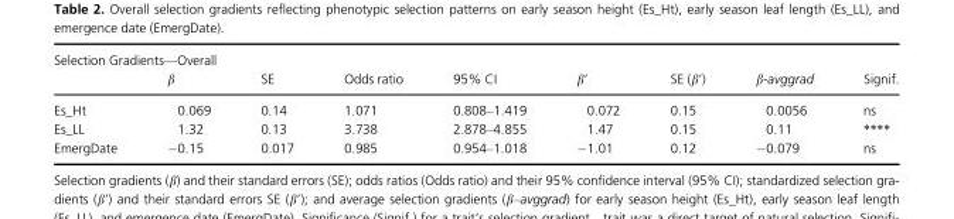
<table><thead><tr><td colspan="9">Selection Gradients—Overall</td></tr><tr><td></td><td>β</td><td>SE</td><td>Odds ratio</td><td>95% CI</td><td>β’</td><td>SE (β’)</td><td>β-avggrad</td><td>Signif.</td></tr></thead><tbody><tr><td>Es_Ht</td><td>0.069</td><td>0.14</td><td>1.071</td><td>0.808–1.419</td><td>0.072</td><td>0.15</td><td>0.0056</td><td>ns</td></tr><tr><td>Es_LL</td><td>1.32</td><td>0.13</td><td>3.738</td><td>2.878–4.855</td><td>1.47</td><td>0.15</td><td>0.11</td><td>****</td></tr><tr><td>EmergDate</td><td>−0.15</td><td>0.017</td><td>0.985</td><td>0.954–1.018</td><td>−1.01</td><td>0.12</td><td>−0.079</td><td>ns</td></tr></tbody></table>